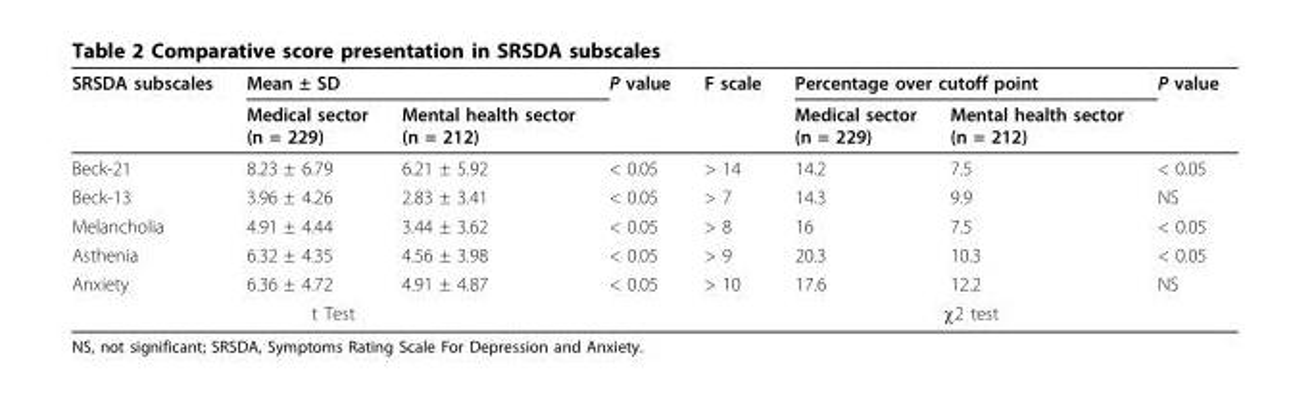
<table><thead><tr><td rowspan="2">SRSDA subscales</td><td colspan="2">Mean ± SD</td><td rowspan="2">P value</td><td rowspan="2">F scale</td><td colspan="2">Percentage over cutoff point</td><td rowspan="2">P value</td></tr><tr><td>Medical sector (n = 229)</td><td>Mental health sector (n = 212)</td><td>Medical sector (n = 229)</td><td>Mental health sector (n = 212)</td></tr></thead><tbody><tr><td>Beck-21</td><td>8.23 ± 6.79</td><td>6.21 ± 5.92</td><td>&lt; 0.05</td><td>&gt; 14</td><td>14.2</td><td>7.5</td><td>&lt; 0.05</td></tr><tr><td>Beck-13</td><td>3.96 ± 4.26</td><td>2.83 ± 3.41</td><td>&lt; 0.05</td><td>&gt; 7</td><td>14.3</td><td>9.9</td><td>NS</td></tr><tr><td>Melancholia</td><td>4.91 ± 4.44</td><td>3.44 ± 3.62</td><td>&lt; 0.05</td><td>&gt; 8</td><td>16</td><td>7.5</td><td>&lt; 0.05</td></tr><tr><td>Asthenia</td><td>6.32 ± 4.35</td><td>4.56 ± 3.98</td><td>&lt; 0.05</td><td>&gt; 9</td><td>20.3</td><td>10.3</td><td>&lt; 0.05</td></tr><tr><td>Anxiety</td><td>6.36 ± 4.72</td><td>4.91 ± 4.87</td><td>&lt; 0.05</td><td>&gt; 10</td><td>17.6</td><td>12.2</td><td>NS</td></tr><tr><td colspan="3">t Test</td><td></td><td colspan="4">χ2 test</td></tr></tbody></table>